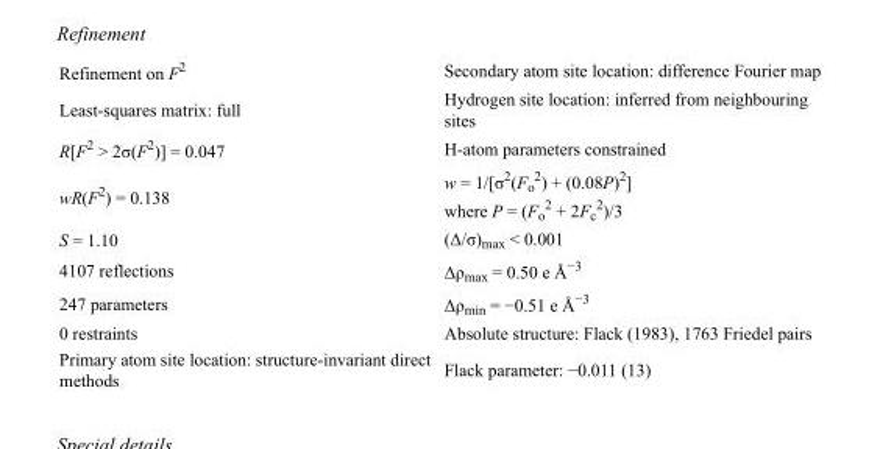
<table><tbody><tr><td>Refinement on F<sup>2</sup></td><td>Secondary atom site location: difference Fourier map</td></tr><tr><td>Least-squares matrix: full</td><td>Hydrogen site location: inferred from neighbouring sites</td></tr><tr><td>R[F<sup>2</sup> &gt; 2σ(F<sup>2</sup>)] = 0.047</td><td>H-atom parameters constrained</td></tr><tr><td>wR(F<sup>2</sup>) = 0.138</td><td>w = 1/[σ<sup>2</sup>(F<sub>o</sub> <sup>2</sup>) + (0.08P)<sup>2</sup>] where P = (F<sub>o</sub> <sup>2</sup> + 2F<sub>c</sub> <sup>2</sup>)/3</td></tr><tr><td>S = 1.10</td><td>(Δ/σ)<sub>max</sub> &lt; 0.001</td></tr><tr><td>4107 reflections</td><td>Δρ<sub>max</sub> = 0.50 e Å<sup>−3</sup></td></tr><tr><td>247 parameters</td><td>Δρ<sub>min</sub> = −0.51 e Å<sup>−3</sup></td></tr><tr><td>0 restraints</td><td>Absolute structure: Flack (1983), 1763 Friedel pairs</td></tr><tr><td>Primary atom site location: structure-invariant direct methods</td><td>Flack parameter: −0.011 (13)</td></tr></tbody></table>